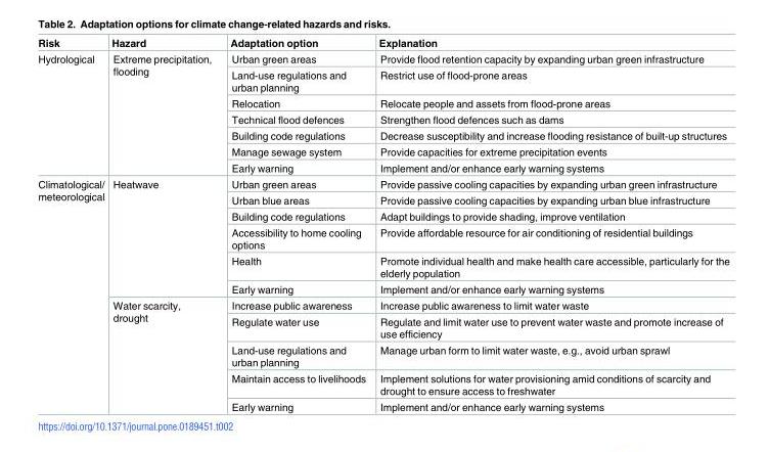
<table><thead><tr><td>Risk</td><td>Hazard</td><td>Adaptation option</td><td>Explanation</td></tr></thead><tbody><tr><td rowspan="7">Hydrological</td><td rowspan="7">Extreme precipitation, flooding</td><td>Urban green areas</td><td>Provide flood retention capacity by expanding urban green infrastructure</td></tr><tr><td>Land-use regulations and urban planning</td><td>Restrict use of flood-prone areas</td></tr><tr><td>Relocation</td><td>Relocate people and assets from flood-prone areas</td></tr><tr><td>Technical flood defences</td><td>Strengthen flood defences such as dams</td></tr><tr><td>Building code regulations</td><td>Decrease susceptibility and increase flooding resistance of built-up structures</td></tr><tr><td>Manage sewage system</td><td>Provide capacities for extreme precipitation events</td></tr><tr><td>Early warning</td><td>Implement and/or enhance early warning systems</td></tr><tr><td rowspan="11">Climatological/ meteorological</td><td rowspan="6">Heatwave</td><td>Urban green areas</td><td>Provide passive cooling capacities by expanding urban green infrastructure</td></tr><tr><td>Urban blue areas</td><td>Provide passive cooling capacities by expanding urban blue infrastructure</td></tr><tr><td>Building code regulations</td><td>Adapt buildings to provide shading, improve ventilation</td></tr><tr><td>Accessibility to home cooling options</td><td>Provide affordable resource for air conditioning of residential buildings</td></tr><tr><td>Health</td><td>Promote individual health and make health care accessible, particularly for the elderly population</td></tr><tr><td>Early warning</td><td>Implement and/or enhance early warning systems</td></tr><tr><td rowspan="5">Water scarcity, drought</td><td>Increase public awareness</td><td>Increase public awareness to limit water waste</td></tr><tr><td>Regulate water use</td><td>Regulate and limit water use to prevent water waste and promote increase of use efficiency</td></tr><tr><td>Land-use regulations and urban planning</td><td>Manage urban form to limit water waste, e.g., avoid urban sprawl</td></tr><tr><td>Maintain access to livelihoods</td><td>Implement solutions for water provisioning amid conditions of scarcity and drought to ensure access to freshwater</td></tr><tr><td>Early warning</td><td>Implement and/or enhance early warning systems</td></tr></tbody></table>